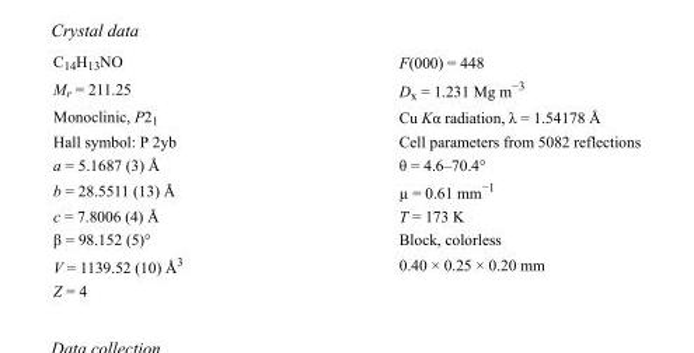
<table><tbody><tr><td>C<sub>14</sub>H<sub>13</sub>NO</td><td>F(000) = 448</td></tr><tr><td>M<sub>r</sub> = 211.25</td><td>D<sub>x</sub> = 1.231 Mg m<sup>−3</sup></td></tr><tr><td>Monoclinic, P2<sub>1</sub></td><td>Cu Kα radiation, λ = 1.54178 Å</td></tr><tr><td>Hall symbol: P 2yb</td><td>Cell parameters from 5082 reflections</td></tr><tr><td>a = 5.1687 (3) Å</td><td>θ = 4.6–70.4°</td></tr><tr><td>b = 28.5511 (13) Å</td><td>µ = 0.61 mm<sup>−1</sup></td></tr><tr><td>c = 7.8006 (4) Å</td><td>T = 173 K</td></tr><tr><td>β = 98.152 (5)°</td><td>Block, colorless</td></tr><tr><td>V = 1139.52 (10) Å<sup>3</sup></td><td>0.40 × 0.25 × 0.20 mm</td></tr><tr><td>Z = 4</td><td></td></tr></tbody></table>